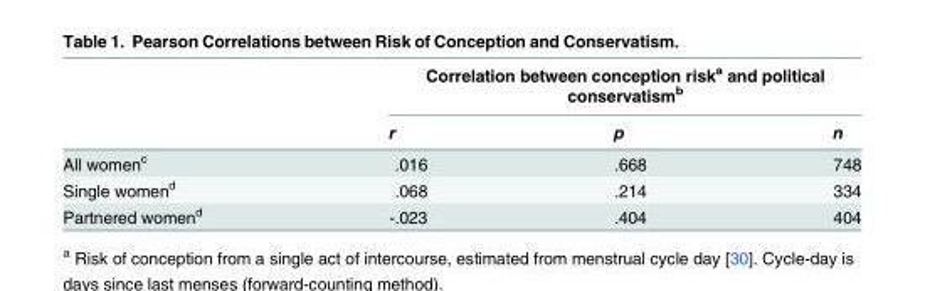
<table><thead><tr><td rowspan="2"></td><td colspan="3">Correlation between conception risk<sup>a</sup> and political conservatism<sup>b</sup></td></tr><tr><td>r</td><td>p</td><td>n</td></tr></thead><tbody><tr><td>All women<sup>c</sup></td><td>.016</td><td>.668</td><td>748</td></tr><tr><td>Single women<sup>d</sup></td><td>.068</td><td>.214</td><td>334</td></tr><tr><td>Partnered women<sup>d</sup></td><td>-.023</td><td>.404</td><td>404</td></tr></tbody></table>